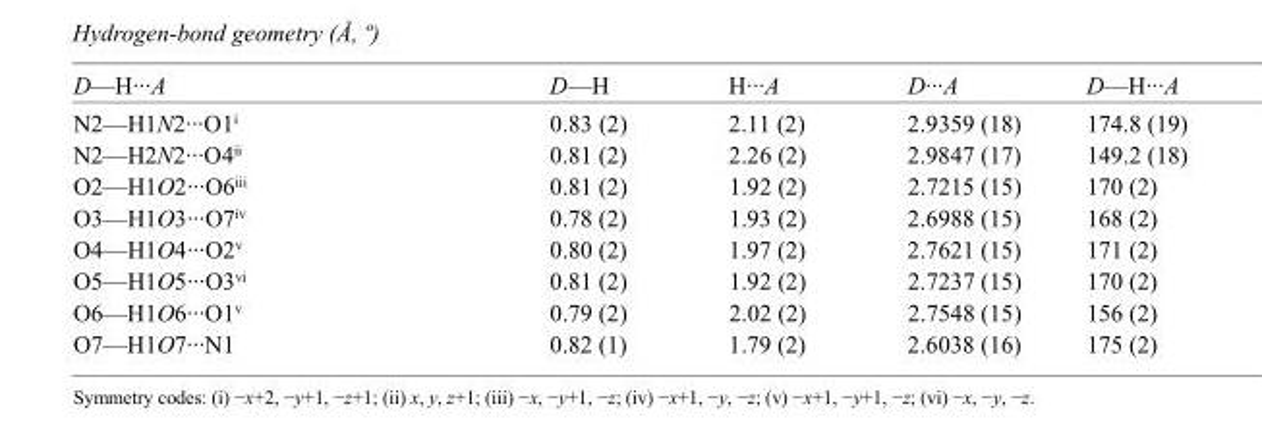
<table><tbody><tr><td>D—H···A</td><td>D—H</td><td>H···A</td><td>D···A</td><td>D—H···A</td></tr><tr><td>N2—H1N2···O1<sup>i</sup></td><td>0.83 (2)</td><td>2.11 (2)</td><td>2.9359 (18)</td><td>174.8 (19)</td></tr><tr><td>N2—H2N2···O4<sup>ii</sup></td><td>0.81 (2)</td><td>2.26 (2)</td><td>2.9847 (17)</td><td>149.2 (18)</td></tr><tr><td>O2—H1O2···O6<sup>iii</sup></td><td>0.81 (2)</td><td>1.92 (2)</td><td>2.7215 (15)</td><td>170 (2)</td></tr><tr><td>O3—H1O3···O7<sup>iv</sup></td><td>0.78 (2)</td><td>1.93 (2)</td><td>2.6988 (15)</td><td>168 (2)</td></tr><tr><td>O4—H1O4···O2<sup>v</sup></td><td>0.80 (2)</td><td>1.97 (2)</td><td>2.7621 (15)</td><td>171 (2)</td></tr><tr><td>O5—H1O5···O3<sup>vi</sup></td><td>0.81 (2)</td><td>1.92 (2)</td><td>2.7237 (15)</td><td>170 (2)</td></tr><tr><td>O6—H1O6···O1<sup>v</sup></td><td>0.79 (2)</td><td>2.02 (2)</td><td>2.7548 (15)</td><td>156 (2)</td></tr><tr><td>O7—H1O7···N1</td><td>0.82 (1)</td><td>1.79 (2)</td><td>2.6038 (16)</td><td>175 (2)</td></tr></tbody></table>